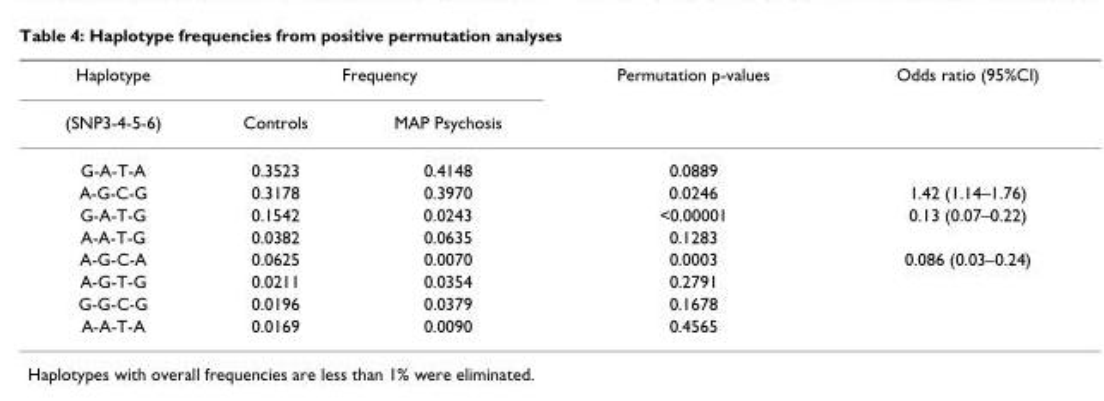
<table><thead><tr><td rowspan="2">Haplotype (SNP3-4-5-6)</td><td colspan="2">Frequency</td><td rowspan="2">Permutation p-values</td><td rowspan="2">Odds ratio (95%CI)</td></tr><tr><td>Controls</td><td>MAP Psychosis</td></tr></thead><tbody><tr><td>G-A-T-A</td><td>0.3523</td><td>0.4148</td><td>0.0889</td><td></td></tr><tr><td>A-G-C-G</td><td>0.3178</td><td>0.3970</td><td>0.0246</td><td>1.42 (1.14–1.76)</td></tr><tr><td>G-A-T-G</td><td>0.1542</td><td>0.0243</td><td>&lt;0.00001</td><td>0.13 (0.07–0.22)</td></tr><tr><td>A-A-T-G</td><td>0.0382</td><td>0.0635</td><td>0.1283</td><td></td></tr><tr><td>A-G-C-A</td><td>0.0625</td><td>0.0070</td><td>0.0003</td><td>0.086 (0.03–0.24)</td></tr><tr><td>A-G-T-G</td><td>0.0211</td><td>0.0354</td><td>0.2791</td><td></td></tr><tr><td>G-G-C-G</td><td>0.0196</td><td>0.0379</td><td>0.1678</td><td></td></tr><tr><td>A-A-T-A</td><td>0.0169</td><td>0.0090</td><td>0.4565</td><td></td></tr></tbody></table>